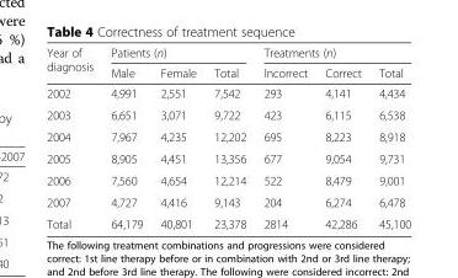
<table><thead><tr><td rowspan="2">Year of diagnosis</td><td colspan="3">Patients (n)</td><td colspan="3">Treatments (n)</td></tr><tr><td>Male</td><td>Female</td><td>Total</td><td>Incorrect</td><td>Correct</td><td>Total</td></tr></thead><tbody><tr><td>2002</td><td>4,991</td><td>2,551</td><td>7,542</td><td>293</td><td>4,141</td><td>4,434</td></tr><tr><td>2003</td><td>6,651</td><td>3,071</td><td>9,722</td><td>423</td><td>6,115</td><td>6,538</td></tr><tr><td>2004</td><td>7,967</td><td>4,235</td><td>12,202</td><td>695</td><td>8,223</td><td>8,918</td></tr><tr><td>2005</td><td>8,905</td><td>4,451</td><td>13,356</td><td>677</td><td>9,054</td><td>9,731</td></tr><tr><td>2006</td><td>7,560</td><td>4,654</td><td>12,214</td><td>522</td><td>8,479</td><td>9,001</td></tr><tr><td>2007</td><td>4,727</td><td>4,416</td><td>9,143</td><td>204</td><td>6,274</td><td>6,478</td></tr><tr><td>Total</td><td>64,179</td><td>40,801</td><td>23,378</td><td>2814</td><td>42,286</td><td>45,100</td></tr></tbody></table>